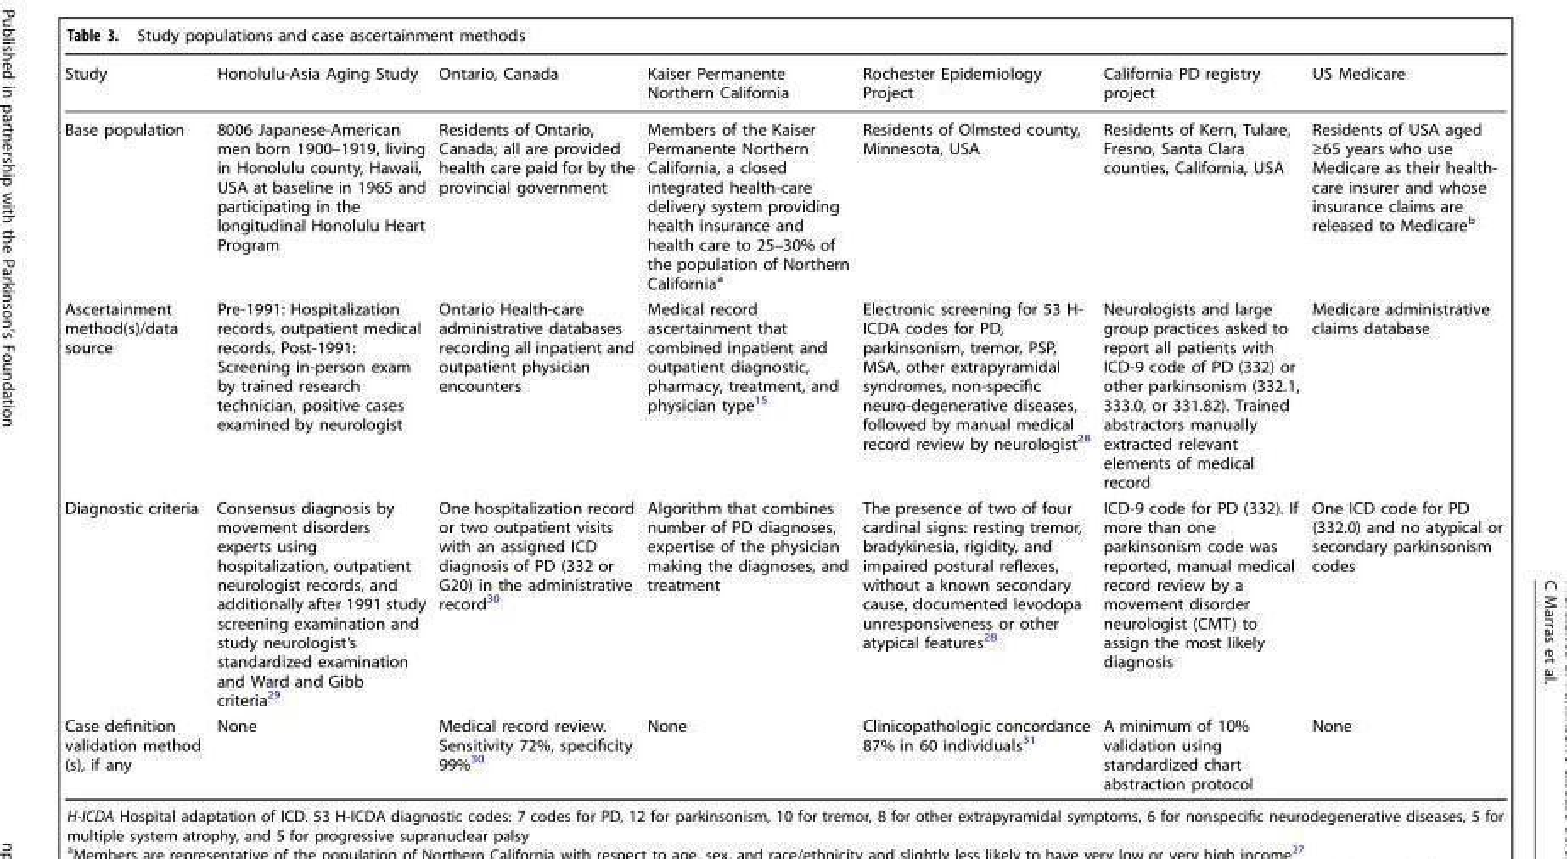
<table><thead><tr><td>Study</td><td>Honolulu-Asia Aging Study</td><td>Ontario, Canada</td><td>Kaiser Permanente Northern California</td><td>Rochester Epidemiology Project</td><td>California PD registry project</td><td>US Medicare</td></tr></thead><tbody><tr><td>Base population</td><td>8006 Japanese-American men born 1900–1919, living in Honolulu county, Hawaii, USA at baseline in 1965 and participating in the longitudinal Honolulu Heart Program</td><td>Residents of Ontario, Canada; all are provided health care paid for by the provincial government</td><td>Members of the Kaiser Permanente Northern California, a closed integrated health-care delivery system providing health insurance and health care to 25–30% of the population of Northern California<sup>a</sup></td><td>Residents of Olmsted county, Minnesota, USA</td><td>Residents of Kern, Tulare, Fresno, Santa Clara counties, California, USA</td><td>Residents of USA aged ≥65 years who use Medicare as their health- care insurer and whose insurance claims are released to Medicare<sup>b</sup></td></tr><tr><td>Ascertainment method(s)/data source</td><td>Pre-1991: Hospitalization records, outpatient medical records, Post-1991: Screening in-person exam by trained research technician, positive cases examined by neurologist</td><td>Ontario Health-care administrative databases recording all inpatient and outpatient physician encounters</td><td>Medical record ascertainment that combined inpatient and outpatient diagnostic, pharmacy, treatment, and physician type<sup>15</sup></td><td>Electronic screening for 53 H- ICDA codes for PD, parkinsonism, tremor, PSP, MSA, other extrapyramidal syndromes, non-specific neuro-degenerative diseases, followed by manual medical record review by neurologist<sup>28</sup></td><td>Neurologists and large group practices asked to report all patients with ICD-9 code of PD (332) or other parkinsonism (332.1, 333.0, or 331.82). Trained abstractors manually extracted relevant elements of medical record</td><td>Medicare administrative claims database</td></tr><tr><td>Diagnostic criteria</td><td>Consensus diagnosis by movement disorders experts using hospitalization, outpatient neurologist records, and additionally after 1991 study screening examination and study neurologist’s standardized examination and Ward and Gibb criteria<sup>29</sup></td><td>One hospitalization record or two outpatient visits with an assigned ICD diagnosis of PD (332 or G20) in the administrative record<sup>30</sup></td><td>Algorithm that combines number of PD diagnoses, expertise of the physician making the diagnoses, and treatment</td><td>The presence of two of four cardinal signs: resting tremor, bradykinesia, rigidity, and impaired postural reflexes, without a known secondary cause, documented levodopa unresponsiveness or other atypical features<sup>28</sup></td><td>ICD-9 code for PD (332). If more than one parkinsonism code was reported, manual medical record review by a movement disorder neurologist (CMT) to assign the most likely diagnosis</td><td>One ICD code for PD (332.0) and no atypical or secondary parkinsonism codes</td></tr><tr><td>Case definition validation method (s), if any</td><td>None</td><td>Medical record review. Sensitivity 72%, specificity 99%<sup>30</sup></td><td>None</td><td>Clinicopathologic concordance 87% in 60 individuals<sup>31</sup></td><td>A minimum of 10% validation using standardized chart abstraction protocol</td><td>None</td></tr></tbody></table>